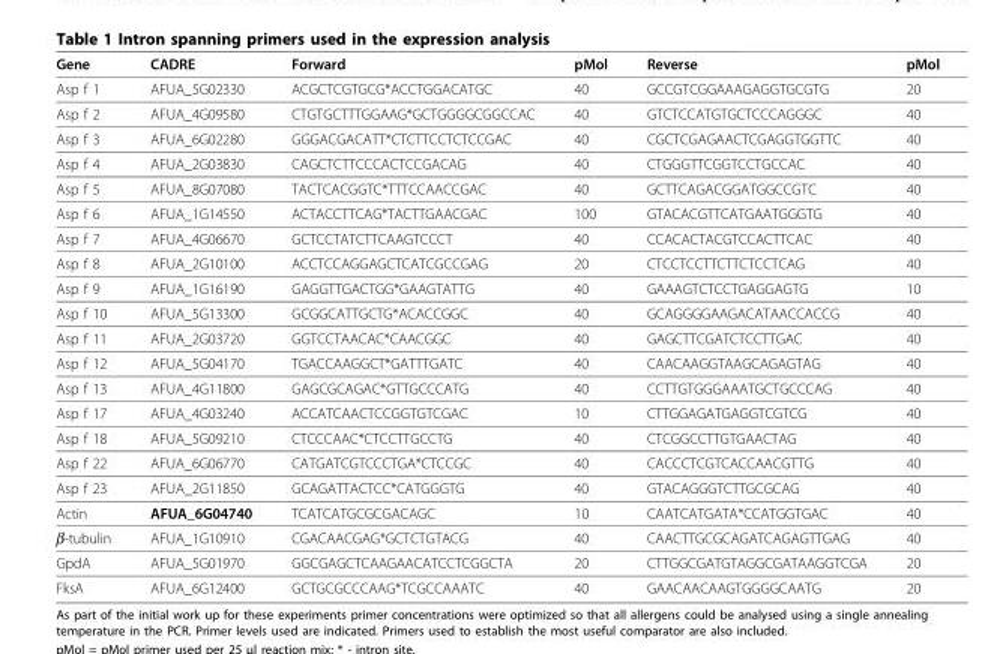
<table><thead><tr><td>Gene</td><td>CADRE</td><td>Forward</td><td>pMol</td><td>Reverse</td><td>pMol</td></tr></thead><tbody><tr><td>Asp f 1</td><td>AFUA_5G02330</td><td>ACGCTCGTGCG*ACCTGGACATGC</td><td>40</td><td>GCCGTCGGAAAGAGGTGCGTG</td><td>20</td></tr><tr><td>Asp f 2</td><td>AFUA_4G09580</td><td>CTGTGCTTTGGAAG*GCTGGGGCGGCCAC</td><td>40</td><td>GTCTCCATGTGCTCCCAGGGC</td><td>40</td></tr><tr><td>Asp f 3</td><td>AFUA_6G02280</td><td>GGGACGACATT*CTCTTCCTCTCCGAC</td><td>40</td><td>CGCTCGAGAACTCGAGGTGGTTC</td><td>40</td></tr><tr><td>Asp f 4</td><td>AFUA_2G03830</td><td>CAGCTCTTCCCACTCCGACAG</td><td>40</td><td>CTGGGTTCGGTCCTGCCAC</td><td>40</td></tr><tr><td>Asp f 5</td><td>AFUA_8G07080</td><td>TACTCACGGTC*TTTCCAACCGAC</td><td>40</td><td>GCTTCAGACGGATGGCCGTC</td><td>40</td></tr><tr><td>Asp f 6</td><td>AFUA_1G14550</td><td>ACTACCTTCAG*TACTTGAACGAC</td><td>100</td><td>GTACACGTTCATGAATGGGTG</td><td>40</td></tr><tr><td>Asp f 7</td><td>AFUA_4G06670</td><td>GCTCCTATCTTCAAGTCCCT</td><td>40</td><td>CCACACTACGTCCACTTCAC</td><td>40</td></tr><tr><td>Asp f 8</td><td>AFUA_2G10100</td><td>ACCTCCAGGAGCTCATCGCCGAG</td><td>20</td><td>CTCCTCCTTCTTCTCCTCAG</td><td>40</td></tr><tr><td>Asp f 9</td><td>AFUA_1G16190</td><td>GAGGTTGACTGG*GAAGTATTG</td><td>40</td><td>GAAAGTCTCCTGAGGAGTG</td><td>10</td></tr><tr><td>Asp f 10</td><td>AFUA_5G13300</td><td>GCGGCATTGCTG*ACACCGGC</td><td>40</td><td>GCAGGGGAAGACATAACCACCG</td><td>40</td></tr><tr><td>Asp f 11</td><td>AFUA_2G03720</td><td>GGTCCTAACAC*CAACGGC</td><td>40</td><td>GAGCTTCGATCTCCTTGAC</td><td>40</td></tr><tr><td>Asp f 12</td><td>AFUA_5G04170</td><td>TGACCAAGGCT*GATTTGATC</td><td>40</td><td>CAACAAGGTAAGCAGAGTAG</td><td>40</td></tr><tr><td>Asp f 13</td><td>AFUA_4G11800</td><td>GAGCGCAGAC*GTTGCCCATG</td><td>40</td><td>CCTTGTGGGAAATGCTGCCCAG</td><td>40</td></tr><tr><td>Asp f 17</td><td>AFUA_4G03240</td><td>ACCATCAACTCCGGTGTCGAC</td><td>10</td><td>CTTGGAGATGAGGTCGTCG</td><td>40</td></tr><tr><td>Asp f 18</td><td>AFUA_5G09210</td><td>CTCCCAAC*CTCCTTGCCTG</td><td>40</td><td>CTCGGCCTTGTGAACTAG</td><td>40</td></tr><tr><td>Asp f 22</td><td>AFUA_6G06770</td><td>CATGATCGTCCCTGA*CTCCGC</td><td>40</td><td>CACCCTCGTCACCAACGTTG</td><td>40</td></tr><tr><td>Asp f 23</td><td>AFUA_2G11850</td><td>GCAGATTACTCC*CATGGGTG</td><td>40</td><td>GTACAGGGTCTTGCGCAG</td><td>40</td></tr><tr><td>Actin</td><td>AFUA_6G04740</td><td>TCATCATGCGCGACAGC</td><td>10</td><td>CAATCATGATA*CCATGGTGAC</td><td>40</td></tr><tr><td>β-tubulin</td><td>AFUA_1G10910</td><td>CGACAACGAG*GCTCTGTACG</td><td>40</td><td>CAACTTGCGCAGATCAGAGTTGAG</td><td>40</td></tr><tr><td>GpdA</td><td>AFUA_5G01970</td><td>GGCGAGCTCAAGAACATCCTCGGCTA</td><td>20</td><td>CTTGGCGATGTAGGCGATAAGGTCGA</td><td>20</td></tr><tr><td>FksA</td><td>AFUA_6G12400</td><td>GCTGCGCCCAAG*TCGCCAAATC</td><td>40</td><td>GAACAACAAGTGGGGCAATG</td><td>20</td></tr></tbody></table>